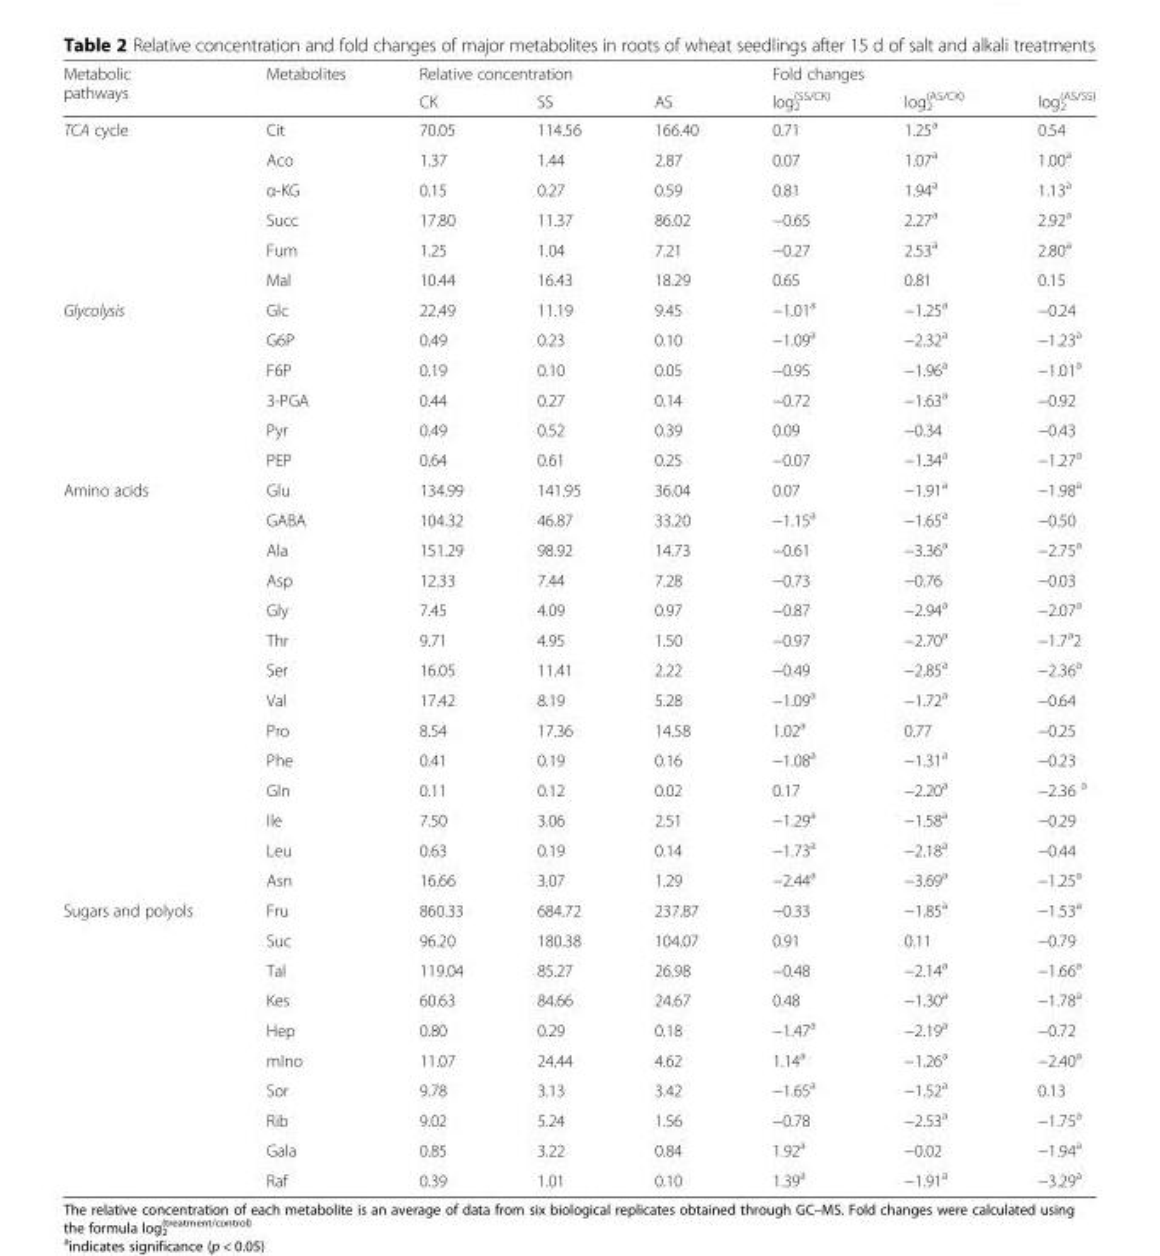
<table><thead><tr><td rowspan="2">Metabolic pathways</td><td rowspan="2">Metabolites</td><td colspan="3">Relative concentration</td><td colspan="3">Fold changes</td></tr><tr><td>CK</td><td>SS</td><td>AS</td><td>log<sub>2</sub> <sup>(SS/CK)</sup></td><td>log<sub>2</sub> <sup>(AS/CK)</sup></td><td>log<sub>2</sub> <sup>(AS/SS)</sup></td></tr></thead><tbody><tr><td rowspan="6">TCA cycle</td><td>Cit</td><td>70.05</td><td>114.56</td><td>166.40</td><td>0.71</td><td>1.25<sup>a</sup></td><td>0.54</td></tr><tr><td>Aco</td><td>1.37</td><td>1.44</td><td>2.87</td><td>0.07</td><td>1.07<sup>a</sup></td><td>1.00<sup>a</sup></td></tr><tr><td>α-KG</td><td>0.15</td><td>0.27</td><td>0.59</td><td>0.81</td><td>1.94<sup>a</sup></td><td>1.13<sup>a</sup></td></tr><tr><td>Succ</td><td>17.80</td><td>11.37</td><td>86.02</td><td>−0.65</td><td>2.27<sup>a</sup></td><td>2.92<sup>a</sup></td></tr><tr><td>Fum</td><td>1.25</td><td>1.04</td><td>7.21</td><td>−0.27</td><td>2.53<sup>a</sup></td><td>2.80<sup>a</sup></td></tr><tr><td>Mal</td><td>10.44</td><td>16.43</td><td>18.29</td><td>0.65</td><td>0.81</td><td>0.15</td></tr><tr><td rowspan="6">Glycolysis</td><td>Glc</td><td>22.49</td><td>11.19</td><td>9.45</td><td>−1.01<sup>a</sup></td><td>−1.25<sup>a</sup></td><td>−0.24</td></tr><tr><td>G6P</td><td>0.49</td><td>0.23</td><td>0.10</td><td>−1.09<sup>a</sup></td><td>−2.32<sup>a</sup></td><td>−1.23<sup>a</sup></td></tr><tr><td>F6P</td><td>0.19</td><td>0.10</td><td>0.05</td><td>−0.95</td><td>−1.96<sup>a</sup></td><td>−1.01<sup>a</sup></td></tr><tr><td>3-PGA</td><td>0.44</td><td>0.27</td><td>0.14</td><td>−0.72</td><td>−1.63<sup>a</sup></td><td>−0.92</td></tr><tr><td>Pyr</td><td>0.49</td><td>0.52</td><td>0.39</td><td>0.09</td><td>−0.34</td><td>−0.43</td></tr><tr><td>PEP</td><td>0.64</td><td>0.61</td><td>0.25</td><td>−0.07</td><td>−1.34<sup>a</sup></td><td>−1.27<sup>a</sup></td></tr><tr><td rowspan="14">Amino acids</td><td>Glu</td><td>134.99</td><td>141.95</td><td>36.04</td><td>0.07</td><td>−1.91<sup>a</sup></td><td>−1.98<sup>a</sup></td></tr><tr><td>GABA</td><td>104.32</td><td>46.87</td><td>33.20</td><td>−1.15<sup>a</sup></td><td>−1.65<sup>a</sup></td><td>−0.50</td></tr><tr><td>Ala</td><td>151.29</td><td>98.92</td><td>14.73</td><td>−0.61</td><td>−3.36<sup>a</sup></td><td>−2.75<sup>a</sup></td></tr><tr><td>Asp</td><td>12.33</td><td>7.44</td><td>7.28</td><td>−0.73</td><td>−0.76</td><td>−0.03</td></tr><tr><td>Gly</td><td>7.45</td><td>4.09</td><td>0.97</td><td>−0.87</td><td>−2.94<sup>a</sup></td><td>−2.07<sup>a</sup></td></tr><tr><td>Thr</td><td>9.71</td><td>4.95</td><td>1.50</td><td>−0.97</td><td>−2.70<sup>a</sup></td><td>−1.7<sup>a</sup>2</td></tr><tr><td>Ser</td><td>16.05</td><td>11.41</td><td>2.22</td><td>−0.49</td><td>−2.85<sup>a</sup></td><td>−2.36<sup>a</sup></td></tr><tr><td>Val</td><td>17.42</td><td>8.19</td><td>5.28</td><td>−1.09<sup>a</sup></td><td>−1.72<sup>a</sup></td><td>−0.64</td></tr><tr><td>Pro</td><td>8.54</td><td>17.36</td><td>14.58</td><td>1.02<sup>a</sup></td><td>0.77</td><td>−0.25</td></tr><tr><td>Phe</td><td>0.41</td><td>0.19</td><td>0.16</td><td>−1.08<sup>a</sup></td><td>−1.31<sup>a</sup></td><td>−0.23</td></tr><tr><td>Gln</td><td>0.11</td><td>0.12</td><td>0.02</td><td>0.17</td><td>−2.20<sup>a</sup></td><td>−2.36 <sup>a</sup></td></tr><tr><td>Ile</td><td>7.50</td><td>3.06</td><td>2.51</td><td>−1.29<sup>a</sup></td><td>−1.58<sup>a</sup></td><td>−0.29</td></tr><tr><td>Leu</td><td>0.63</td><td>0.19</td><td>0.14</td><td>−1.73<sup>a</sup></td><td>−2.18<sup>a</sup></td><td>−0.44</td></tr><tr><td>Asn</td><td>16.66</td><td>3.07</td><td>1.29</td><td>−2.44<sup>a</sup></td><td>−3.69<sup>a</sup></td><td>−1.25<sup>a</sup></td></tr><tr><td rowspan="10">Sugars and polyols</td><td>Fru</td><td>860.33</td><td>684.72</td><td>237.87</td><td>−0.33</td><td>−1.85<sup>a</sup></td><td>−1.53<sup>a</sup></td></tr><tr><td>Suc</td><td>96.20</td><td>180.38</td><td>104.07</td><td>0.91</td><td>0.11</td><td>−0.79</td></tr><tr><td>Tal</td><td>119.04</td><td>85.27</td><td>26.98</td><td>−0.48</td><td>−2.14<sup>a</sup></td><td>−1.66<sup>a</sup></td></tr><tr><td>Kes</td><td>60.63</td><td>84.66</td><td>24.67</td><td>0.48</td><td>−1.30<sup>a</sup></td><td>−1.78<sup>a</sup></td></tr><tr><td>Hep</td><td>0.80</td><td>0.29</td><td>0.18</td><td>−1.47<sup>a</sup></td><td>−2.19<sup>a</sup></td><td>−0.72</td></tr><tr><td>mIno</td><td>11.07</td><td>24.44</td><td>4.62</td><td>1.14<sup>a</sup></td><td>−1.26<sup>a</sup></td><td>−2.40<sup>a</sup></td></tr><tr><td>Sor</td><td>9.78</td><td>3.13</td><td>3.42</td><td>−1.65<sup>a</sup></td><td>−1.52<sup>a</sup></td><td>0.13</td></tr><tr><td>Rib</td><td>9.02</td><td>5.24</td><td>1.56</td><td>−0.78</td><td>−2.53<sup>a</sup></td><td>−1.75<sup>a</sup></td></tr><tr><td>Gala</td><td>0.85</td><td>3.22</td><td>0.84</td><td>1.92<sup>a</sup></td><td>−0.02</td><td>−1.94<sup>a</sup></td></tr><tr><td>Raf</td><td>0.39</td><td>1.01</td><td>0.10</td><td>1.39<sup>a</sup></td><td>−1.91<sup>a</sup></td><td>−3.29<sup>a</sup></td></tr></tbody></table>